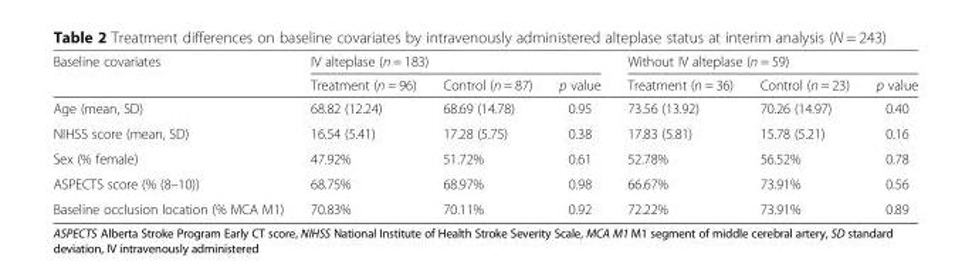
<table><thead><tr><td rowspan="2">Baseline covariates</td><td colspan="3">IV alteplase (n = 183)</td><td colspan="3">Without IV alteplase (n = 59)</td></tr><tr><td>Treatment (n = 96)</td><td>Control (n = 87)</td><td>p value</td><td>Treatment (n = 36)</td><td>Control (n = 23)</td><td>p value</td></tr></thead><tbody><tr><td>Age (mean, SD)</td><td>68.82 (12.24)</td><td>68.69 (14.78)</td><td>0.95</td><td>73.56 (13.92)</td><td>70.26 (14.97)</td><td>0.40</td></tr><tr><td>NIHSS score (mean, SD)</td><td>16.54 (5.41)</td><td>17.28 (5.75)</td><td>0.38</td><td>17.83 (5.81)</td><td>15.78 (5.21)</td><td>0.16</td></tr><tr><td>Sex (% female)</td><td>47.92%</td><td>51.72%</td><td>0.61</td><td>52.78%</td><td>56.52%</td><td>0.78</td></tr><tr><td>ASPECTS score (% (8–10))</td><td>68.75%</td><td>68.97%</td><td>0.98</td><td>66.67%</td><td>73.91%</td><td>0.56</td></tr><tr><td>Baseline occlusion location (% MCA M1)</td><td>70.83%</td><td>70.11%</td><td>0.92</td><td>72.22%</td><td>73.91%</td><td>0.89</td></tr></tbody></table>